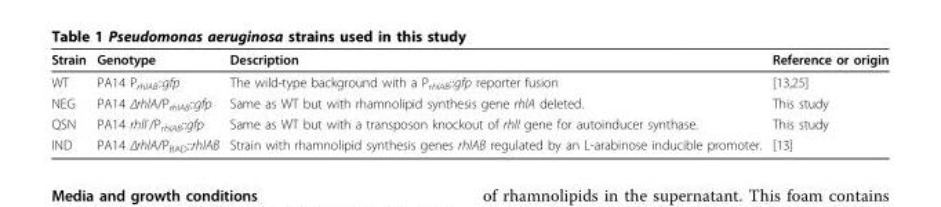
<table><thead><tr><td>Strain</td><td>Genotype</td><td>Description</td><td>Reference or origin</td></tr></thead><tbody><tr><td>WT</td><td>PA14 P<sub>rhlAB</sub>::gfp</td><td>The wild-type background with a P<sub>rhlAB</sub>::gfp reporter fusion</td><td>[13,25]</td></tr><tr><td>NEG</td><td>PA14 ΔrhlA/P<sub>rhlAB</sub>::gfp</td><td>Same as WT but with rhamnolipid synthesis gene rhlA deleted.</td><td>This study</td></tr><tr><td>QSN</td><td>PA14 rhlI<sup>-</sup>/P<sub>rhlAB</sub>::gfp</td><td>Same as WT but with a transposon knockout of rhlI gene for autoinducer synthase.</td><td>This study</td></tr><tr><td>IND</td><td>PA14 ΔrhlA/P<sub>BAD</sub>::rhlAB</td><td>Strain with rhamnolipid synthesis genes rhlAB regulated by an L-arabinose inducible promoter.</td><td>[13]</td></tr></tbody></table>